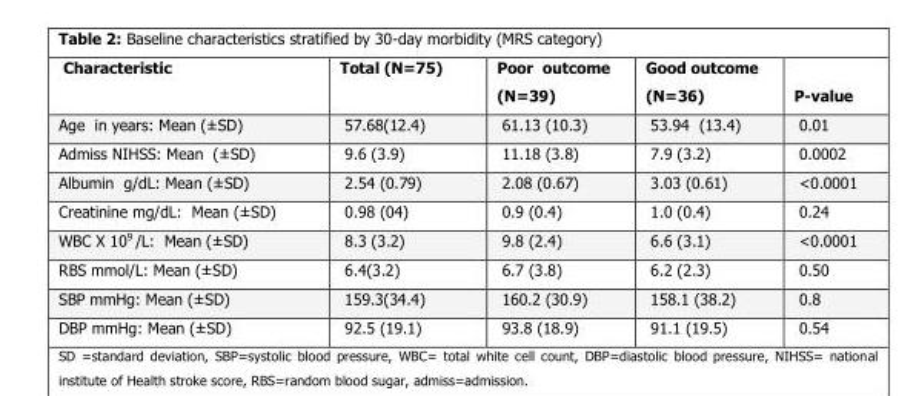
<table><thead><tr><td>Characteristic</td><td>Total (N=75)</td><td>Poor outcome (N=39)</td><td>Good outcome (N=36)</td><td>P-value</td></tr></thead><tbody><tr><td>Age in years: Mean (±SD)</td><td>57.68(12.4)</td><td>61.13 (10.3)</td><td>53.94 (13.4)</td><td>0.01</td></tr><tr><td>Admiss NIHSS: Mean (±SD)</td><td>9.6 (3.9)</td><td>11.18 (3.8)</td><td>7.9 (3.2)</td><td>0.0002</td></tr><tr><td>Albumin g/dL: Mean (±SD)</td><td>2.54 (0.79)</td><td>2.08 (0.67)</td><td>3.03 (0.61)</td><td>&lt;0.0001</td></tr><tr><td>Creatinine mg/dL: Mean (±SD)</td><td>0.98 (04)</td><td>0.9 (0.4)</td><td>1.0 (0.4)</td><td>0.24</td></tr><tr><td>WBC X 10<sup>9</sup> /L: Mean (±SD)</td><td>8.3 (3.2)</td><td>9.8 (2.4)</td><td>6.6 (3.1)</td><td>&lt;0.0001</td></tr><tr><td>RBS mmol/L: Mean (±SD)</td><td>6.4(3.2)</td><td>6.7 (3.8)</td><td>6.2 (2.3)</td><td>0.50</td></tr><tr><td>SBP mmHg: Mean (±SD)</td><td>159.3(34.4)</td><td>160.2 (30.9)</td><td>158.1 (38.2)</td><td>0.8</td></tr><tr><td>DBP mmHg: Mean (±SD)</td><td>92.5 (19.1)</td><td>93.8 (18.9)</td><td>91.1 (19.5)</td><td>0.54</td></tr></tbody></table>